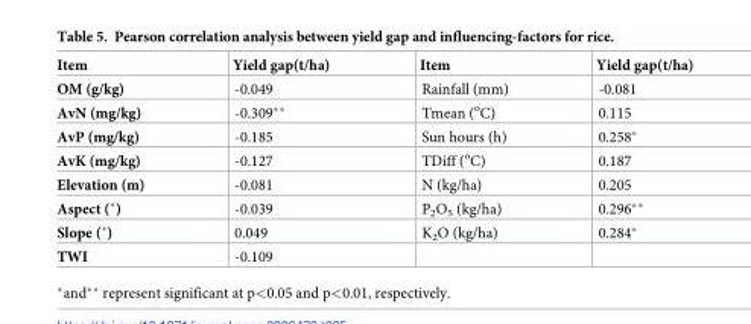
<table><thead><tr><td>Item</td><td>Yield gap(t/ha)</td><td>Item</td><td>Yield gap(t/ha)</td></tr></thead><tbody><tr><td>OM (g/kg)</td><td>-0.049</td><td>Rainfall (mm)</td><td>-0.081</td></tr><tr><td>AvN (mg/kg)</td><td>-0.309**</td><td>Tmean (<sup>o</sup>C)</td><td>0.115</td></tr><tr><td>AvP (mg/kg)</td><td>-0.185</td><td>Sun hours (h)</td><td>0.258*</td></tr><tr><td>AvK (mg/kg)</td><td>-0.127</td><td>TDiff (<sup>o</sup>C)</td><td>0.187</td></tr><tr><td>Elevation (m)</td><td>-0.081</td><td>N (kg/ha)</td><td>0.205</td></tr><tr><td>Aspect (˚)</td><td>-0.039</td><td>P<sub>2</sub>O<sub>5</sub> (kg/ha)</td><td>0.296**</td></tr><tr><td>Slope (˚)</td><td>0.049</td><td>K<sub>2</sub>O (kg/ha)</td><td>0.284*</td></tr><tr><td>TWI</td><td>-0.109</td><td></td><td></td></tr></tbody></table>